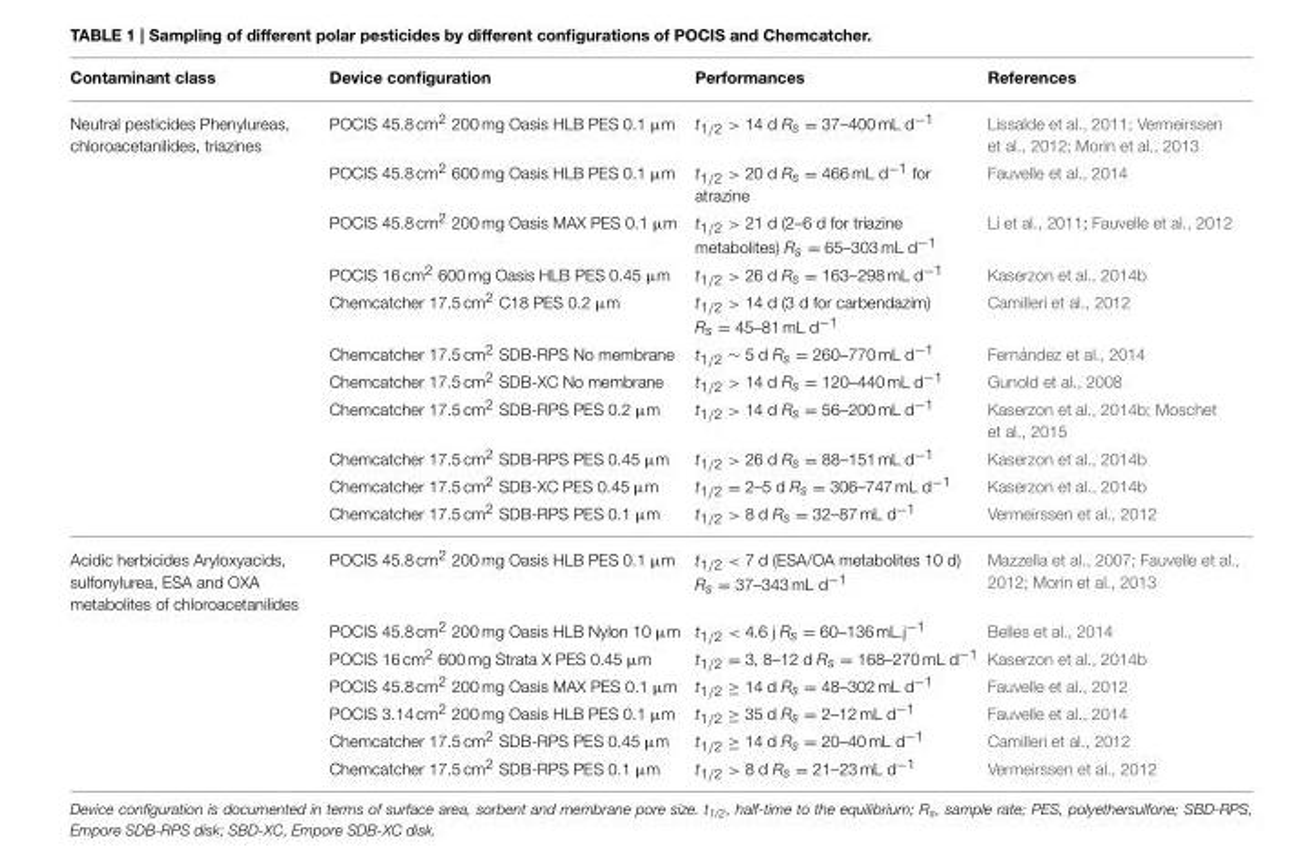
<table><thead><tr><td>Contaminant class</td><td>Device configuration</td><td>Performances</td><td>References</td></tr></thead><tbody><tr><td rowspan="11">Neutral pesticides Phenylureas, chloroacetanilides, triazines</td><td>POCIS 45.8 cm<sup>2</sup> 200 mg Oasis HLB PES 0.1 µm</td><td>t<sub>1/2</sub> &gt; 14 d R<sub>s</sub> = 37–400 mL d<sup>−1</sup></td><td>Lissalde et al., 2011; Vermeirssen et al., 2012; Morin et al., 2013</td></tr><tr><td>POCIS 45.8 cm<sup>2</sup> 600 mg Oasis HLB PES 0.1 µm</td><td>t<sub>1/2</sub> &gt; 20 d R<sub>s</sub> = 466 mL d<sup>−1</sup> for atrazine</td><td>Fauvelle et al., 2014</td></tr><tr><td>POCIS 45.8 cm<sup>2</sup> 200 mg Oasis MAX PES 0.1 µm</td><td>t<sub>1/2</sub> &gt; 21 d (2–6 d for triazine metabolites) R<sub>s</sub> = 65–303 mL d<sup>−1</sup></td><td>Li et al., 2011; Fauvelle et al., 2012</td></tr><tr><td>POCIS 16 cm<sup>2</sup> 600 mg Oasis HLB PES 0.45 µm</td><td>t<sub>1/2</sub> &gt; 26 d R<sub>s</sub> = 163–298 mL d<sup>−1</sup></td><td>Kaserzon et al., 2014b</td></tr><tr><td>Chemcatcher 17.5 cm<sup>2</sup> C18 PES 0.2 µm</td><td>t<sub>1/2</sub> &gt; 14 d (3 d for carbendazim) R<sub>s</sub> = 45–81 mL d<sup>−1</sup></td><td>Camilleri et al., 2012</td></tr><tr><td>Chemcatcher 17.5 cm<sup>2</sup> SDB-RPS No membrane</td><td>t1/2 ∼ 5 d Rs = 260–770 mL d−1</td><td>Fernández et al., 2014</td></tr><tr><td>Chemcatcher 17.5 cm<sup>2</sup> SDB-XC No membrane</td><td>t<sub>1/2</sub> &gt; 14 d R<sub>s</sub> = 120–440 mL d<sup>−1</sup></td><td>Gunold et al., 2008</td></tr><tr><td>Chemcatcher 17.5 cm<sup>2</sup> SDB-RPS PES 0.2 µm</td><td>t<sub>1/2</sub> &gt; 14 d R<sub>s</sub> = 56–200 mL d<sup>−1</sup></td><td>Kaserzon et al., 2014b; Moschet et al., 2015</td></tr><tr><td>Chemcatcher 17.5 cm<sup>2</sup> SDB-RPS PES 0.45 µm</td><td>t<sub>1/2</sub> &gt; 26 d R<sub>s</sub> = 88–151 mL d<sup>−1</sup></td><td>Kaserzon et al., 2014b</td></tr><tr><td>Chemcatcher 17.5 cm<sup>2</sup> SDB-XC PES 0.45 µm</td><td>t<sub>1/2</sub> = 2–5 d R<sub>s</sub> = 306–747 mL d<sup>−1</sup></td><td>Kaserzon et al., 2014b</td></tr><tr><td>Chemcatcher 17.5 cm<sup>2</sup> SDB-RPS PES 0.1 µm</td><td>t<sub>1/2</sub> &gt; 8 d R<sub>s</sub> = 32–87 mL d<sup>−1</sup></td><td>Vermeirssen et al., 2012</td></tr><tr><td rowspan="7">Acidic herbicides Aryloxyacids, sulfonylurea, ESA and OXA metabolites of chloroacetanilides</td><td>POCIS 45.8 cm<sup>2</sup> 200 mg Oasis HLB PES 0.1 µm</td><td>t<sub>1/2</sub> &lt; 7 d (ESA/OA metabolites 10 d) R<sub>s</sub> = 37–343 mL d<sup>−1</sup></td><td>Mazzella et al., 2007; Fauvelle et al., 2012; Morin et al., 2013</td></tr><tr><td>POCIS 45.8 cm<sup>2</sup> 200 mg Oasis HLB Nylon 10 µm</td><td>t<sub>1/2</sub> &lt; 4.6 j R<sub>s</sub> = 60–136 mL.j<sup>−1</sup></td><td>Belles et al., 2014</td></tr><tr><td>POCIS 16 cm<sup>2</sup> 600 mg Strata X PES 0.45 µm</td><td>t<sub>1/2</sub> = 3, 8–12 d R<sub>s</sub> = 168–270 mL d<sup>−1</sup></td><td>Kaserzon et al., 2014b</td></tr><tr><td>POCIS 45.8 cm<sup>2</sup> 200 mg Oasis MAX PES 0.1 µm</td><td>t<sub>1/2</sub> ≥ 14 d R<sub>s</sub> = 48–302 mL d<sup>−1</sup></td><td>Fauvelle et al., 2012</td></tr><tr><td>POCIS 3.14 cm<sup>2</sup> 200 mg Oasis HLB PES 0.1 µm</td><td>t<sub>1/2</sub> ≥ 35 d R<sub>s</sub> = 2–12 mL d<sup>−1</sup></td><td>Fauvelle et al., 2014</td></tr><tr><td>Chemcatcher 17.5 cm<sup>2</sup> SDB-RPS PES 0.45 µm</td><td>t<sub>1/2</sub> ≥ 14 d R<sub>s</sub> = 20–40 mL d<sup>−1</sup></td><td>Camilleri et al., 2012</td></tr><tr><td>Chemcatcher 17.5 cm<sup>2</sup> SDB-RPS PES 0.1 µm</td><td>t<sub>1/2</sub> &gt; 8 d R<sub>s</sub> = 21–23 mL d<sup>−1</sup></td><td>Vermeirssen et al., 2012</td></tr></tbody></table>